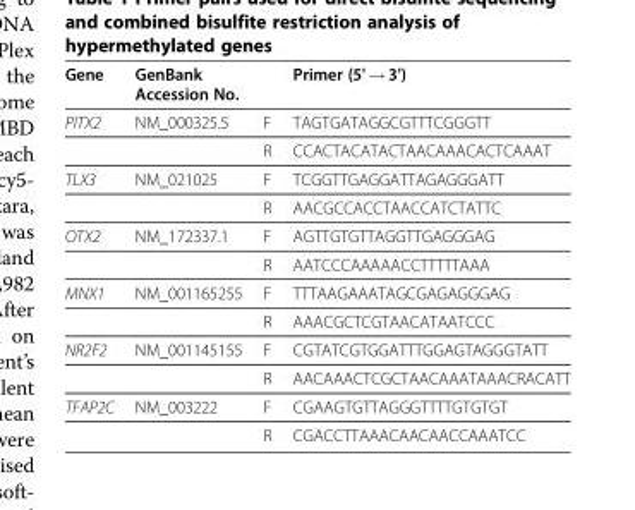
<table><thead><tr><td>Gene</td><td>GenBank Accession No.</td><td></td><td>Primer (5&#x27; → 3&#x27;)</td></tr></thead><tbody><tr><td rowspan="2">PITX2</td><td>NM_000325.5</td><td>F</td><td>TAGTGATAGGCGTTTCGGGTT</td></tr><tr><td></td><td>R</td><td>CCACTACATACTAACAAACACTCAAAT</td></tr><tr><td rowspan="2">TLX3</td><td>NM_021025</td><td>F</td><td>TCGGTTGAGGATTAGAGGGATT</td></tr><tr><td></td><td>R</td><td>AACGCCACCTAACCATCTATTC</td></tr><tr><td rowspan="2">OTX2</td><td>NM_172337.1</td><td>F</td><td>AGTTGTGTTAGGTTGAGGGAG</td></tr><tr><td></td><td>R</td><td>AATCCCAAAAACCTTTTTAAA</td></tr><tr><td rowspan="2">MNX1</td><td>NM_001165255</td><td>F</td><td>TTTAAGAAATAGCGAGAGGGAG</td></tr><tr><td></td><td>R</td><td>AAACGCTCGTAACATAATCCC</td></tr><tr><td rowspan="2">NR2F2</td><td>NM_001145155</td><td>F</td><td>CGTATCGTGGATTTGGAGTAGGGTATT</td></tr><tr><td></td><td>R</td><td>AACAAACTCGCTAACAAATAAACRACATT</td></tr><tr><td rowspan="2">TFAP2C</td><td>NM_003222</td><td>F</td><td>CGAAGTGTTAGGGTTTTGTGTGT</td></tr><tr><td></td><td>R</td><td>CGACCTTAAACAACAACCAAATCC</td></tr></tbody></table>